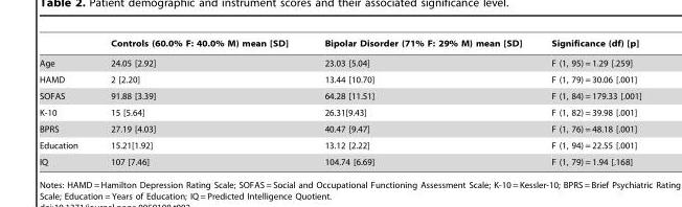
<table><thead><tr><td></td><td>Controls (60.0% F: 40.0% M) mean [SD]</td><td>Bipolar Disorder (71% F: 29% M) mean [SD]</td><td>Significance (df) [p]</td></tr></thead><tbody><tr><td>Age</td><td>24.05 [2.92]</td><td>23.03 [5.04]</td><td>F (1, 95) = 1.29 [.259]</td></tr><tr><td>HAMD</td><td>2 [2.20]</td><td>13.44 [10.70]</td><td>F (1, 79) = 30.06 [.001]</td></tr><tr><td>SOFAS</td><td>91.88 [3.39]</td><td>64.28 [11.51]</td><td>F (1, 84) = 179.33 [.001]</td></tr><tr><td>K-10</td><td>15 [5.64]</td><td>26.31[9.43]</td><td>F (1, 82) = 39.98 [.001]</td></tr><tr><td>BPRS</td><td>27.19 [4.03]</td><td>40.47 [9.47]</td><td>F (1, 76) = 48.18 [.001]</td></tr><tr><td>Education</td><td>15.21[1.92]</td><td>13.12 [2.22]</td><td>F (1, 94) = 22.55 [.001]</td></tr><tr><td>IQ</td><td>107 [7.46]</td><td>104.74 [6.69]</td><td>F (1, 79) = 1.94 [.168]</td></tr></tbody></table>